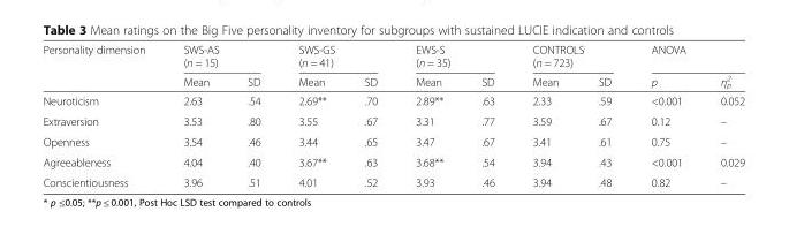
<table><thead><tr><td rowspan="2">Personality dimension</td><td colspan="2">SWS-AS (n = 15)</td><td colspan="2">SWS-GS (n = 41)</td><td colspan="2">EWS-S (n = 35)</td><td colspan="2">CONTROLS (n = 723)</td><td colspan="2">ANOVA</td></tr><tr><td>Mean</td><td>SD</td><td>Mean</td><td>SD</td><td>Mean</td><td>SD</td><td>Mean</td><td>SD</td><td>p</td><td>η<sub>p</sub> <sup>2</sup></td></tr></thead><tbody><tr><td>Neuroticism</td><td>2.63</td><td>.54</td><td>2.69**</td><td>.70</td><td>2.89**</td><td>.63</td><td>2.33</td><td>.59</td><td>&lt;0.001</td><td>0.052</td></tr><tr><td>Extraversion</td><td>3.53</td><td>.80</td><td>3.55</td><td>.67</td><td>3.31</td><td>.77</td><td>3.59</td><td>.67</td><td>0.12</td><td>–</td></tr><tr><td>Openness</td><td>3.54</td><td>.46</td><td>3.44</td><td>.65</td><td>3.47</td><td>.67</td><td>3.41</td><td>.61</td><td>0.75</td><td>–</td></tr><tr><td>Agreeableness</td><td>4.04</td><td>.40</td><td>3.67**</td><td>.63</td><td>3.68**</td><td>.54</td><td>3.94</td><td>.43</td><td>&lt;0.001</td><td>0.029</td></tr><tr><td>Conscientiousness</td><td>3.96</td><td>.51</td><td>4.01</td><td>.52</td><td>3.93</td><td>.46</td><td>3.94</td><td>.48</td><td>0.82</td><td>–</td></tr></tbody></table>